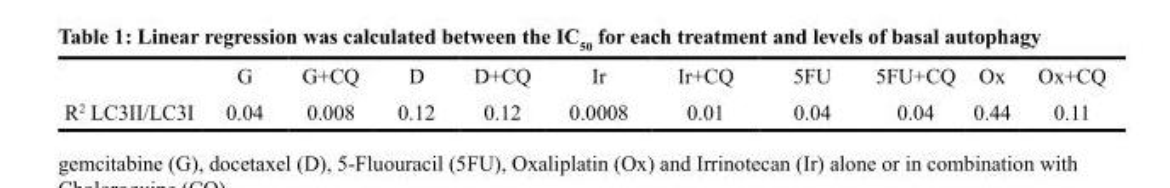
<table><thead><tr><td></td><td>G</td><td>G+CQ</td><td>D</td><td>D+CQ</td><td>Ir</td><td>Ir+CQ</td><td>5FU</td><td>5FU+CQ</td><td>Ox</td><td>Ox+CQ</td></tr></thead><tbody><tr><td>R<sup>2</sup> LC3II/LC3I</td><td>0.04</td><td>0.008</td><td>0.12</td><td>0.12</td><td>0.0008</td><td>0.01</td><td>0.04</td><td>0.04</td><td>0.44</td><td>0.11</td></tr></tbody></table>